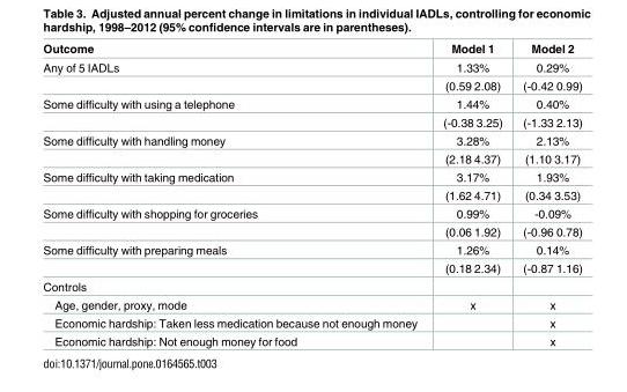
<table><thead><tr><td>Outcome</td><td>Model 1</td><td>Model 2</td></tr></thead><tbody><tr><td rowspan="2">Any of 5 IADLs</td><td>1.33%</td><td>0.29%</td></tr><tr><td>(0.59 2.08)</td><td>(-0.42 0.99)</td></tr><tr><td rowspan="2">Some difficulty with using a telephone</td><td>1.44%</td><td>0.40%</td></tr><tr><td>(-0.38 3.25)</td><td>(-1.33 2.13)</td></tr><tr><td rowspan="2">Some difficulty with handling money</td><td>3.28%</td><td>2.13%</td></tr><tr><td>(2.18 4.37)</td><td>(1.10 3.17)</td></tr><tr><td rowspan="2">Some difficulty with taking medication</td><td>3.17%</td><td>1.93%</td></tr><tr><td>(1.62 4.71)</td><td>(0.34 3.53)</td></tr><tr><td rowspan="2">Some difficulty with shopping for groceries</td><td>0.99%</td><td>-0.09%</td></tr><tr><td>(0.06 1.92)</td><td>(-0.96 0.78)</td></tr><tr><td rowspan="2">Some difficulty with preparing meals</td><td>1.26%</td><td>0.14%</td></tr><tr><td>(0.18 2.34)</td><td>(-0.87 1.16)</td></tr><tr><td colspan="3">Controls</td></tr><tr><td>Age, gender, proxy, mode</td><td>x</td><td>x</td></tr><tr><td>Economic hardship: Taken less medication because not enough money</td><td></td><td>x</td></tr><tr><td>Economic hardship: Not enough money for food</td><td></td><td>x</td></tr></tbody></table>